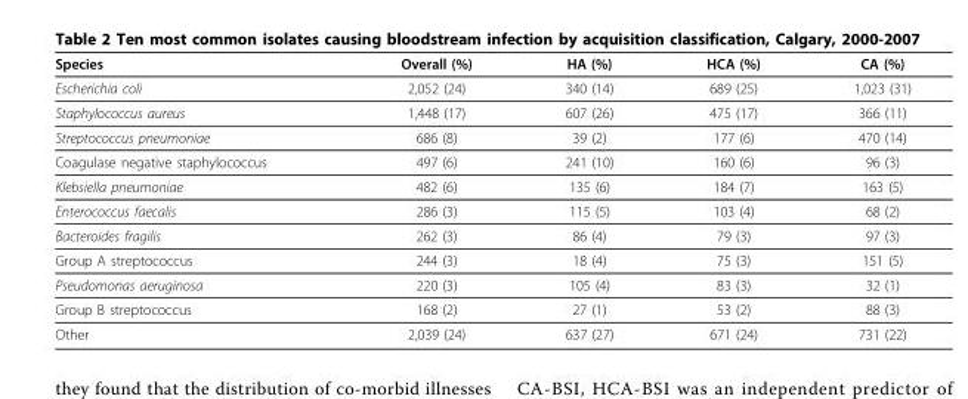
<table><thead><tr><td>Species</td><td>Overall (%)</td><td>HA (%)</td><td>HCA (%)</td><td>CA (%)</td></tr></thead><tbody><tr><td>Escherichia coli</td><td>2,052 (24)</td><td>340 (14)</td><td>689 (25)</td><td>1,023 (31)</td></tr><tr><td>Staphylococcus aureus</td><td>1,448 (17)</td><td>607 (26)</td><td>475 (17)</td><td>366 (11)</td></tr><tr><td>Streptococcus pneumoniae</td><td>686 (8)</td><td>39 (2)</td><td>177 (6)</td><td>470 (14)</td></tr><tr><td>Coagulase negative staphylococcus</td><td>497 (6)</td><td>241 (10)</td><td>160 (6)</td><td>96 (3)</td></tr><tr><td>Klebsiella pneumoniae</td><td>482 (6)</td><td>135 (6)</td><td>184 (7)</td><td>163 (5)</td></tr><tr><td>Enterococcus faecalis</td><td>286 (3)</td><td>115 (5)</td><td>103 (4)</td><td>68 (2)</td></tr><tr><td>Bacteroides fragilis</td><td>262 (3)</td><td>86 (4)</td><td>79 (3)</td><td>97 (3)</td></tr><tr><td>Group A streptococcus</td><td>244 (3)</td><td>18 (4)</td><td>75 (3)</td><td>151 (5)</td></tr><tr><td>Pseudomonas aeruginosa</td><td>220 (3)</td><td>105 (4)</td><td>83 (3)</td><td>32 (1)</td></tr><tr><td>Group B streptococcus</td><td>168 (2)</td><td>27 (1)</td><td>53 (2)</td><td>88 (3)</td></tr><tr><td>Other</td><td>2,039 (24)</td><td>637 (27)</td><td>671 (24)</td><td>731 (22)</td></tr></tbody></table>